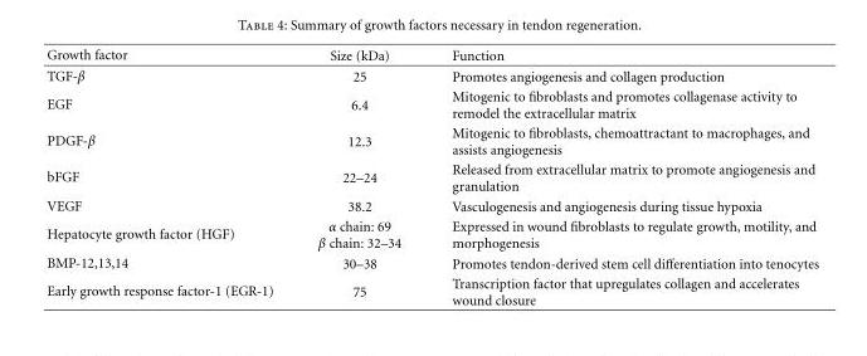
<table><thead><tr><td>Growth factor</td><td>Size (kDa)</td><td>Function</td></tr></thead><tbody><tr><td>TGF-β</td><td>25</td><td>Promotes angiogenesis and collagen production</td></tr><tr><td>EGF</td><td>6.4</td><td>Mitogenic to fibroblasts and promotes collagenase activity to remodel the extracellular matrix</td></tr><tr><td>PDGF-β</td><td>12.3</td><td>Mitogenic to fibroblasts, chemoattractant to macrophages, and assists angiogenesis</td></tr><tr><td>bFGF</td><td>22–24</td><td>Released from extracellular matrix to promote angiogenesis and granulation</td></tr><tr><td>VEGF</td><td>38.2</td><td>Vasculogenesis and angiogenesis during tissue hypoxia</td></tr><tr><td>Hepatocyte growth factor (HGF)</td><td>α chain: 69 β chain: 32–34</td><td>Expressed in wound fibroblasts to regulate growth, motility, and morphogenesis</td></tr><tr><td>BMP-12,13,14</td><td>30–38</td><td>Promotes tendon-derived stem cell differentiation into tenocytes</td></tr><tr><td>Early growth response factor-1 (EGR-1)</td><td>75</td><td>Transcription factor that upregulates collagen and accelerates wound closure</td></tr></tbody></table>